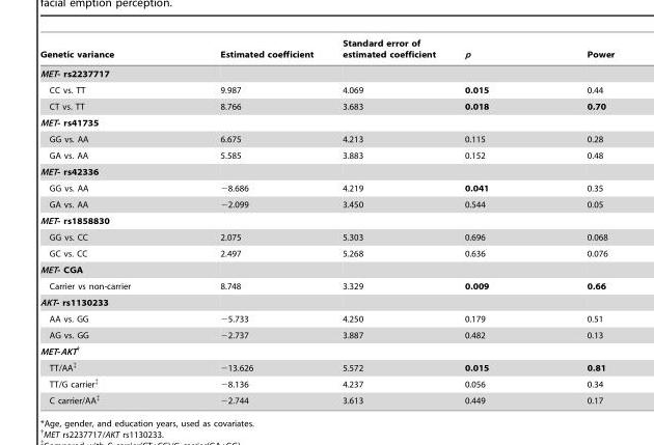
<table><thead><tr><td>Genetic variance</td><td>Estimated coefficient</td><td>Standard error of estimated coefficient</td><td>p</td><td>Power</td></tr></thead><tbody><tr><td colspan="5">MET- rs2237717</td></tr><tr><td>CC vs. TT</td><td>9.987</td><td>4.069</td><td>0.015</td><td>0.44</td></tr><tr><td>CT vs. TT</td><td>8.766</td><td>3.683</td><td>0.018</td><td>0.70</td></tr><tr><td colspan="5">MET- rs41735</td></tr><tr><td>GG vs. AA</td><td>6.675</td><td>4.213</td><td>0.115</td><td>0.28</td></tr><tr><td>GA vs. AA</td><td>5.585</td><td>3.883</td><td>0.152</td><td>0.48</td></tr><tr><td colspan="5">MET- rs42336</td></tr><tr><td>GG vs. AA</td><td>−8.686</td><td>4.219</td><td>0.041</td><td>0.35</td></tr><tr><td>GA vs. AA</td><td>−2.099</td><td>3.450</td><td>0.544</td><td>0.05</td></tr><tr><td colspan="5">MET- rs1858830</td></tr><tr><td>GG vs. CC</td><td>2.075</td><td>5.303</td><td>0.696</td><td>0.068</td></tr><tr><td>GC vs. CC</td><td>2.497</td><td>5.268</td><td>0.636</td><td>0.076</td></tr><tr><td colspan="5">MET- CGA</td></tr><tr><td>Carrier vs non-carrier</td><td>8.748</td><td>3.329</td><td>0.009</td><td>0.66</td></tr><tr><td colspan="5">AKT- rs1130233</td></tr><tr><td>AA vs. GG</td><td>−5.733</td><td>4.250</td><td>0.179</td><td>0.51</td></tr><tr><td>AG vs. GG</td><td>−2.737</td><td>3.887</td><td>0.482</td><td>0.13</td></tr><tr><td colspan="5">MET-AKT†</td></tr><tr><td>TT/AA‡</td><td>−13.626</td><td>5.572</td><td>0.015</td><td>0.81</td></tr><tr><td>TT/G carrier‡</td><td>−8.136</td><td>4.237</td><td>0.056</td><td>0.34</td></tr><tr><td>C carrier/AA‡</td><td>−2.744</td><td>3.613</td><td>0.449</td><td>0.17</td></tr></tbody></table>